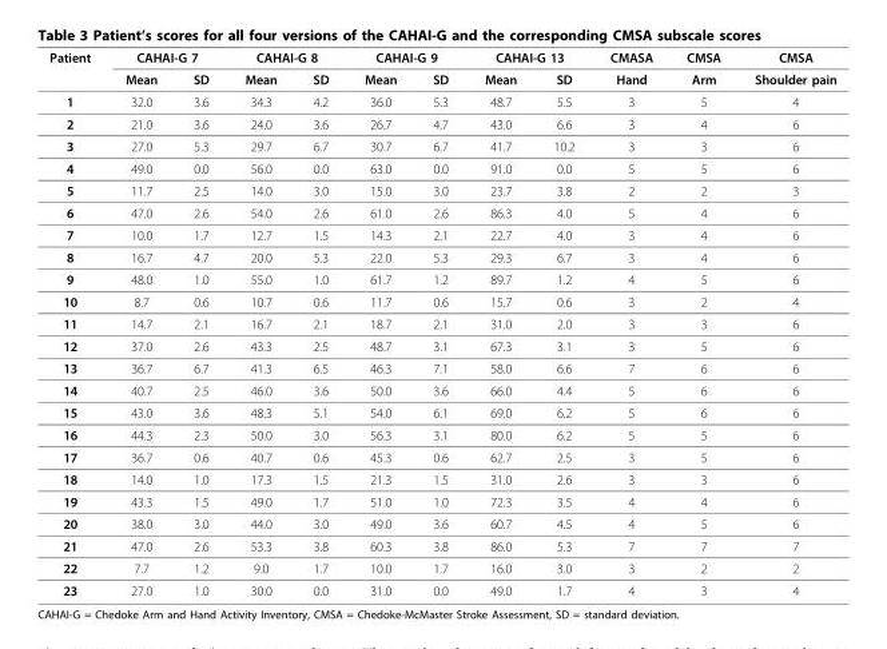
<table><thead><tr><td rowspan="2">Patient</td><td colspan="2">CAHAI-G 7</td><td colspan="2">CAHAI-G 8</td><td colspan="2">CAHAI-G 9</td><td colspan="2">CAHAI-G 13</td><td rowspan="2">CMASA Hand</td><td rowspan="2">CMSA Arm</td><td rowspan="2">CMSA Shoulder pain</td></tr><tr><td>Mean</td><td>SD</td><td>Mean</td><td>SD</td><td>Mean</td><td>SD</td><td>Mean</td><td>SD</td></tr></thead><tbody><tr><td>1</td><td>32.0</td><td>3.6</td><td>34.3</td><td>4.2</td><td>36.0</td><td>5.3</td><td>48.7</td><td>5.5</td><td>3</td><td>5</td><td>4</td></tr><tr><td>2</td><td>21.0</td><td>3.6</td><td>24.0</td><td>3.6</td><td>26.7</td><td>4.7</td><td>43.0</td><td>6.6</td><td>3</td><td>4</td><td>6</td></tr><tr><td>3</td><td>27.0</td><td>5.3</td><td>29.7</td><td>6.7</td><td>30.7</td><td>6.7</td><td>41.7</td><td>10.2</td><td>3</td><td>3</td><td>6</td></tr><tr><td>4</td><td>49.0</td><td>0.0</td><td>56.0</td><td>0.0</td><td>63.0</td><td>0.0</td><td>91.0</td><td>0.0</td><td>5</td><td>5</td><td>6</td></tr><tr><td>5</td><td>11.7</td><td>2.5</td><td>14.0</td><td>3.0</td><td>15.0</td><td>3.0</td><td>23.7</td><td>3.8</td><td>2</td><td>2</td><td>3</td></tr><tr><td>6</td><td>47.0</td><td>2.6</td><td>54.0</td><td>2.6</td><td>61.0</td><td>2.6</td><td>86.3</td><td>4.0</td><td>5</td><td>4</td><td>6</td></tr><tr><td>7</td><td>10.0</td><td>1.7</td><td>12.7</td><td>1.5</td><td>14.3</td><td>2.1</td><td>22.7</td><td>4.0</td><td>3</td><td>4</td><td>6</td></tr><tr><td>8</td><td>16.7</td><td>4.7</td><td>20.0</td><td>5.3</td><td>22.0</td><td>5.3</td><td>29.3</td><td>6.7</td><td>3</td><td>4</td><td>6</td></tr><tr><td>9</td><td>48.0</td><td>1.0</td><td>55.0</td><td>1.0</td><td>61.7</td><td>1.2</td><td>89.7</td><td>1.2</td><td>4</td><td>5</td><td>6</td></tr><tr><td>10</td><td>8.7</td><td>0.6</td><td>10.7</td><td>0.6</td><td>11.7</td><td>0.6</td><td>15.7</td><td>0.6</td><td>3</td><td>2</td><td>4</td></tr><tr><td>11</td><td>14.7</td><td>2.1</td><td>16.7</td><td>2.1</td><td>18.7</td><td>2.1</td><td>31.0</td><td>2.0</td><td>3</td><td>3</td><td>6</td></tr><tr><td>12</td><td>37.0</td><td>2.6</td><td>43.3</td><td>2.5</td><td>48.7</td><td>3.1</td><td>67.3</td><td>3.1</td><td>3</td><td>5</td><td>6</td></tr><tr><td>13</td><td>36.7</td><td>6.7</td><td>41.3</td><td>6.5</td><td>46.3</td><td>7.1</td><td>58.0</td><td>6.6</td><td>7</td><td>6</td><td>6</td></tr><tr><td>14</td><td>40.7</td><td>2.5</td><td>46.0</td><td>3.6</td><td>50.0</td><td>3.6</td><td>66.0</td><td>4.4</td><td>5</td><td>6</td><td>6</td></tr><tr><td>15</td><td>43.0</td><td>3.6</td><td>48.3</td><td>5.1</td><td>54.0</td><td>6.1</td><td>69.0</td><td>6.2</td><td>5</td><td>6</td><td>6</td></tr><tr><td>16</td><td>44.3</td><td>2.3</td><td>50.0</td><td>3.0</td><td>56.3</td><td>3.1</td><td>80.0</td><td>6.2</td><td>5</td><td>5</td><td>6</td></tr><tr><td>17</td><td>36.7</td><td>0.6</td><td>40.7</td><td>0.6</td><td>45.3</td><td>0.6</td><td>62.7</td><td>2.5</td><td>3</td><td>5</td><td>6</td></tr><tr><td>18</td><td>14.0</td><td>1.0</td><td>17.3</td><td>1.5</td><td>21.3</td><td>1.5</td><td>31.0</td><td>2.6</td><td>3</td><td>3</td><td>6</td></tr><tr><td>19</td><td>43.3</td><td>1.5</td><td>49.0</td><td>1.7</td><td>51.0</td><td>1.0</td><td>72.3</td><td>3.5</td><td>4</td><td>4</td><td>6</td></tr><tr><td>20</td><td>38.0</td><td>3.0</td><td>44.0</td><td>3.0</td><td>49.0</td><td>3.6</td><td>60.7</td><td>4.5</td><td>4</td><td>5</td><td>6</td></tr><tr><td>21</td><td>47.0</td><td>2.6</td><td>53.3</td><td>3.8</td><td>60.3</td><td>3.8</td><td>86.0</td><td>5.3</td><td>7</td><td>7</td><td>7</td></tr><tr><td>22</td><td>7.7</td><td>1.2</td><td>9.0</td><td>1.7</td><td>10.0</td><td>1.7</td><td>16.0</td><td>3.0</td><td>3</td><td>2</td><td>2</td></tr><tr><td>23</td><td>27.0</td><td>1.0</td><td>30.0</td><td>0.0</td><td>31.0</td><td>0.0</td><td>49.0</td><td>1.7</td><td>4</td><td>3</td><td>4</td></tr></tbody></table>